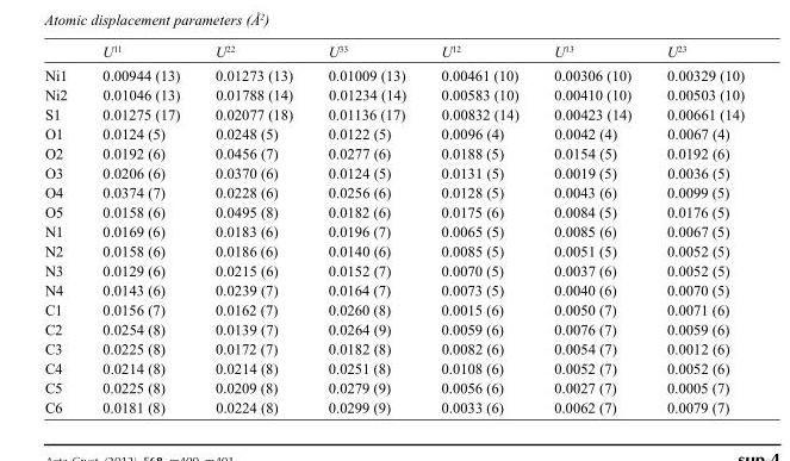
<table><thead><tr><td></td><td>U<sup>11</sup></td><td>U<sup>22</sup></td><td>U<sup>33</sup></td><td>U<sup>12</sup></td><td>U<sup>13</sup></td><td>U<sup>23</sup></td></tr></thead><tbody><tr><td>Ni1</td><td>0.00944 (13)</td><td>0.01273 (13)</td><td>0.01009 (13)</td><td>0.00461 (10)</td><td>0.00306 (10)</td><td>0.00329 (10)</td></tr><tr><td>Ni2</td><td>0.01046 (13)</td><td>0.01788 (14)</td><td>0.01234 (14)</td><td>0.00583 (10)</td><td>0.00410 (10)</td><td>0.00503 (10)</td></tr><tr><td>S1</td><td>0.01275 (17)</td><td>0.02077 (18)</td><td>0.01136 (17)</td><td>0.00832 (14)</td><td>0.00423 (14)</td><td>0.00661 (14)</td></tr><tr><td>O1</td><td>0.0124 (5)</td><td>0.0248 (5)</td><td>0.0122 (5)</td><td>0.0096 (4)</td><td>0.0042 (4)</td><td>0.0067 (4)</td></tr><tr><td>O2</td><td>0.0192 (6)</td><td>0.0456 (7)</td><td>0.0277 (6)</td><td>0.0188 (5)</td><td>0.0154 (5)</td><td>0.0192 (6)</td></tr><tr><td>O3</td><td>0.0206 (6)</td><td>0.0370 (6)</td><td>0.0124 (5)</td><td>0.0131 (5)</td><td>0.0019 (5)</td><td>0.0036 (5)</td></tr><tr><td>O4</td><td>0.0374 (7)</td><td>0.0228 (6)</td><td>0.0256 (6)</td><td>0.0128 (5)</td><td>0.0043 (6)</td><td>0.0099 (5)</td></tr><tr><td>O5</td><td>0.0158 (6)</td><td>0.0495 (8)</td><td>0.0182 (6)</td><td>0.0175 (6)</td><td>0.0084 (5)</td><td>0.0176 (5)</td></tr><tr><td>N1</td><td>0.0169 (6)</td><td>0.0183 (6)</td><td>0.0196 (7)</td><td>0.0065 (5)</td><td>0.0085 (6)</td><td>0.0067 (5)</td></tr><tr><td>N2</td><td>0.0158 (6)</td><td>0.0186 (6)</td><td>0.0140 (6)</td><td>0.0085 (5)</td><td>0.0051 (5)</td><td>0.0052 (5)</td></tr><tr><td>N3</td><td>0.0129 (6)</td><td>0.0215 (6)</td><td>0.0152 (7)</td><td>0.0070 (5)</td><td>0.0037 (6)</td><td>0.0052 (5)</td></tr><tr><td>N4</td><td>0.0143 (6)</td><td>0.0239 (7)</td><td>0.0164 (7)</td><td>0.0073 (5)</td><td>0.0040 (6)</td><td>0.0070 (5)</td></tr><tr><td>C1</td><td>0.0156 (7)</td><td>0.0162 (7)</td><td>0.0260 (8)</td><td>0.0015 (6)</td><td>0.0050 (7)</td><td>0.0071 (6)</td></tr><tr><td>C2</td><td>0.0254 (8)</td><td>0.0139 (7)</td><td>0.0264 (9)</td><td>0.0059 (6)</td><td>0.0076 (7)</td><td>0.0059 (6)</td></tr><tr><td>C3</td><td>0.0225 (8)</td><td>0.0172 (7)</td><td>0.0182 (8)</td><td>0.0082 (6)</td><td>0.0054 (7)</td><td>0.0012 (6)</td></tr><tr><td>C4</td><td>0.0214 (8)</td><td>0.0214 (8)</td><td>0.0251 (8)</td><td>0.0108 (6)</td><td>0.0052 (7)</td><td>0.0052 (6)</td></tr><tr><td>C5</td><td>0.0225 (8)</td><td>0.0209 (8)</td><td>0.0279 (9)</td><td>0.0056 (6)</td><td>0.0027 (7)</td><td>0.0005 (7)</td></tr><tr><td>C6</td><td>0.0181 (8)</td><td>0.0224 (8)</td><td>0.0299 (9)</td><td>0.0033 (6)</td><td>0.0062 (7)</td><td>0.0079 (7)</td></tr></tbody></table>